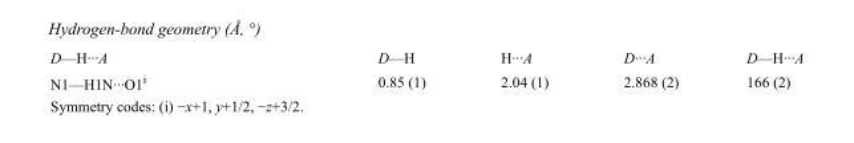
<table><tbody><tr><td>D—H···A</td><td>D—H</td><td>H···A</td><td>D···A</td><td>D—H···A</td></tr><tr><td>N1—H1N···O1<sup>i</sup></td><td>0.85 (1)</td><td>2.04 (1)</td><td>2.868 (2)</td><td>166 (2)</td></tr></tbody></table>